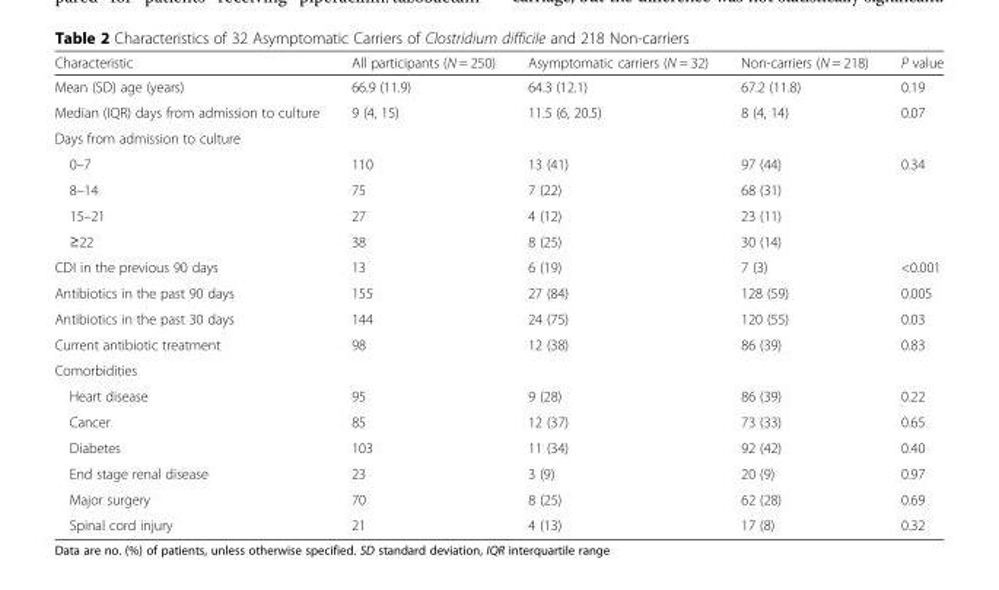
<table><thead><tr><td>Characteristic</td><td>All participants (N = 250)</td><td>Asymptomatic carriers (N = 32)</td><td>Non-carriers (N = 218)</td><td>P value</td></tr></thead><tbody><tr><td>Mean (SD) age (years)</td><td>66.9 (11.9)</td><td>64.3 (12.1)</td><td>67.2 (11.8)</td><td>0.19</td></tr><tr><td>Median (IQR) days from admission to culture</td><td>9 (4, 15)</td><td>11.5 (6, 20.5)</td><td>8 (4, 14)</td><td>0.07</td></tr><tr><td colspan="5">Days from admission to culture</td></tr><tr><td>0–7</td><td>110</td><td>13 (41)</td><td>97 (44)</td><td>0.34</td></tr><tr><td>8–14</td><td>75</td><td>7 (22)</td><td>68 (31)</td><td></td></tr><tr><td>15–21</td><td>27</td><td>4 (12)</td><td>23 (11)</td><td></td></tr><tr><td>≥22</td><td>38</td><td>8 (25)</td><td>30 (14)</td><td></td></tr><tr><td>CDI in the previous 90 days</td><td>13</td><td>6 (19)</td><td>7 (3)</td><td>&lt;0.001</td></tr><tr><td>Antibiotics in the past 90 days</td><td>155</td><td>27 (84)</td><td>128 (59)</td><td>0.005</td></tr><tr><td>Antibiotics in the past 30 days</td><td>144</td><td>24 (75)</td><td>120 (55)</td><td>0.03</td></tr><tr><td>Current antibiotic treatment</td><td>98</td><td>12 (38)</td><td>86 (39)</td><td>0.83</td></tr><tr><td colspan="5">Comorbidities</td></tr><tr><td>Heart disease</td><td>95</td><td>9 (28)</td><td>86 (39)</td><td>0.22</td></tr><tr><td>Cancer</td><td>85</td><td>12 (37)</td><td>73 (33)</td><td>0.65</td></tr><tr><td>Diabetes</td><td>103</td><td>11 (34)</td><td>92 (42)</td><td>0.40</td></tr><tr><td>End stage renal disease</td><td>23</td><td>3 (9)</td><td>20 (9)</td><td>0.97</td></tr><tr><td>Major surgery</td><td>70</td><td>8 (25)</td><td>62 (28)</td><td>0.69</td></tr><tr><td>Spinal cord injury</td><td>21</td><td>4 (13)</td><td>17 (8)</td><td>0.32</td></tr></tbody></table>